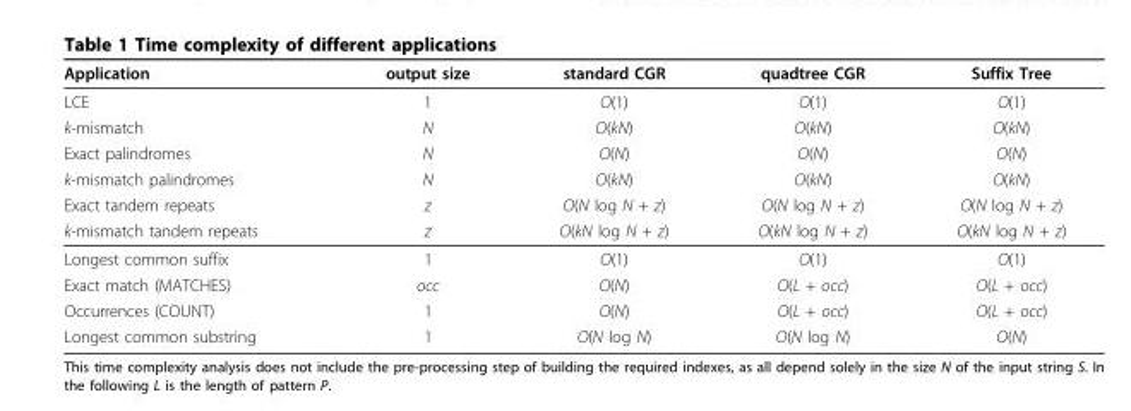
<table><thead><tr><td>Application</td><td>output size</td><td>standard CGR</td><td>quadtree CGR</td><td>Suffix Tree</td></tr></thead><tbody><tr><td>LCE</td><td>1</td><td>O(1)</td><td>O(1)</td><td>O(1)</td></tr><tr><td>k-mismatch</td><td>N</td><td>O(kN)</td><td>O(kN)</td><td>O(kN)</td></tr><tr><td>Exact palindromes</td><td>N</td><td>O(N)</td><td>O(N)</td><td>O(N)</td></tr><tr><td>k-mismatch palindromes</td><td>N</td><td>O(kN)</td><td>O(kN)</td><td>O(kN)</td></tr><tr><td>Exact tandem repeats</td><td>z</td><td>O(N log N + z)</td><td>O(N log N + z)</td><td>O(N log N + z)</td></tr><tr><td>k-mismatch tandem repeats</td><td>z</td><td>O(kN log N + z)</td><td>O(kN log N + z)</td><td>O(kN log N + z)</td></tr><tr><td>Longest common suffix</td><td>1</td><td>O(1)</td><td>O(1)</td><td>O(1)</td></tr><tr><td>Exact match (MATCHES)</td><td>occ</td><td>O(N)</td><td>O(L + occ)</td><td>O(L + occ)</td></tr><tr><td>Occurrences (COUNT)</td><td>1</td><td>O(N)</td><td>O(L + occ)</td><td>O(L + occ)</td></tr><tr><td>Longest common substring</td><td>1</td><td>O(N log N)</td><td>O(N log N)</td><td>O(N)</td></tr></tbody></table>